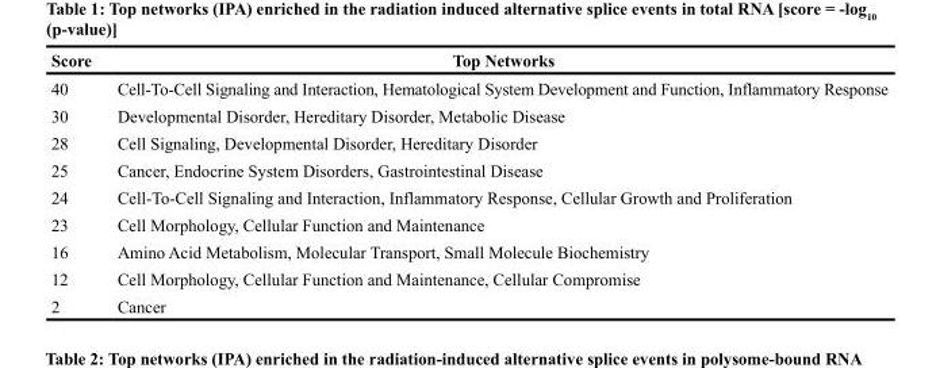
<table><thead><tr><td>Score</td><td>Top Networks</td></tr></thead><tbody><tr><td>40</td><td>Cell-To-Cell Signaling and Interaction, Hematological System Development and Function, Inflammatory Response</td></tr><tr><td>30</td><td>Developmental Disorder, Hereditary Disorder, Metabolic Disease</td></tr><tr><td>28</td><td>Cell Signaling, Developmental Disorder, Hereditary Disorder</td></tr><tr><td>25</td><td>Cancer, Endocrine System Disorders, Gastrointestinal Disease</td></tr><tr><td>24</td><td>Cell-To-Cell Signaling and Interaction, Inflammatory Response, Cellular Growth and Proliferation</td></tr><tr><td>23</td><td>Cell Morphology, Cellular Function and Maintenance</td></tr><tr><td>16</td><td>Amino Acid Metabolism, Molecular Transport, Small Molecule Biochemistry</td></tr><tr><td>12</td><td>Cell Morphology, Cellular Function and Maintenance, Cellular Compromise</td></tr><tr><td>2</td><td>Cancer</td></tr></tbody></table>